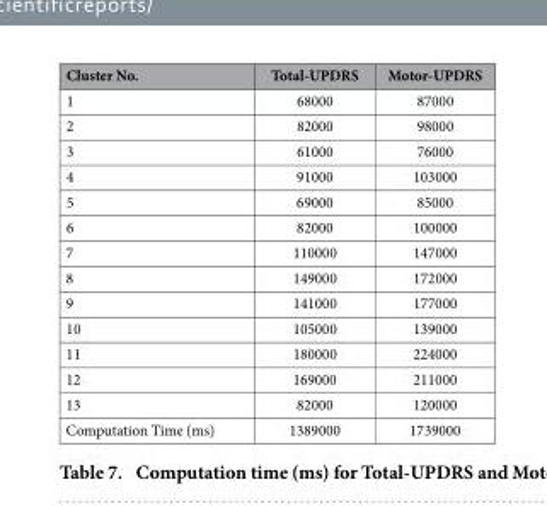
<table><thead><tr><td>Cluster No.</td><td>Total-UPDRS</td><td>Motor-UPDRS</td></tr></thead><tbody><tr><td>1</td><td>68000</td><td>87000</td></tr><tr><td>2</td><td>82000</td><td>98000</td></tr><tr><td>3</td><td>61000</td><td>76000</td></tr><tr><td>4</td><td>91000</td><td>103000</td></tr><tr><td>5</td><td>69000</td><td>85000</td></tr><tr><td>6</td><td>82000</td><td>100000</td></tr><tr><td>7</td><td>110000</td><td>147000</td></tr><tr><td>8</td><td>149000</td><td>172000</td></tr><tr><td>9</td><td>141000</td><td>177000</td></tr><tr><td>10</td><td>105000</td><td>139000</td></tr><tr><td>11</td><td>180000</td><td>224000</td></tr><tr><td>12</td><td>169000</td><td>211000</td></tr><tr><td>13</td><td>82000</td><td>120000</td></tr><tr><td>Computation Time (ms)</td><td>1389000</td><td>1739000</td></tr></tbody></table>